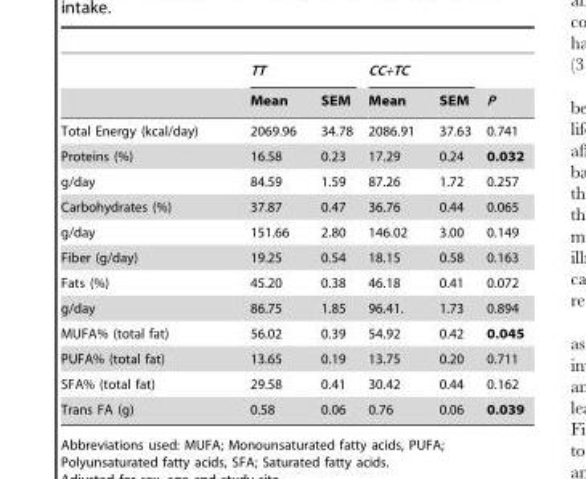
<table><thead><tr><td rowspan="2"></td><td colspan="2">TT</td><td colspan="2">CC+TC</td><td rowspan="2">P</td></tr><tr><td>Mean</td><td>SEM</td><td>Mean</td><td>SEM</td></tr></thead><tbody><tr><td>Total Energy (kcal/day)</td><td>2069.96</td><td>34.78</td><td>2086.91</td><td>37.63</td><td>0.741</td></tr><tr><td>Proteins (%)</td><td>16.58</td><td>0.23</td><td>17.29</td><td>0.24</td><td>0.032</td></tr><tr><td>g/day</td><td>84.59</td><td>1.59</td><td>87.26</td><td>1.72</td><td>0.257</td></tr><tr><td>Carbohydrates (%)</td><td>37.87</td><td>0.47</td><td>36.76</td><td>0.44</td><td>0.065</td></tr><tr><td>g/day</td><td>151.66</td><td>2.80</td><td>146.02</td><td>3.00</td><td>0.149</td></tr><tr><td>Fiber (g/day)</td><td>19.25</td><td>0.54</td><td>18.15</td><td>0.58</td><td>0.163</td></tr><tr><td>Fats (%)</td><td>45.20</td><td>0.38</td><td>46.18</td><td>0.41</td><td>0.072</td></tr><tr><td>g/day</td><td>86.75</td><td>1.85</td><td>96.41.</td><td>1.73</td><td>0.894</td></tr><tr><td>MUFA% (total fat)</td><td>56.02</td><td>0.39</td><td>54.92</td><td>0.42</td><td>0.045</td></tr><tr><td>PUFA% (total fat)</td><td>13.65</td><td>0.19</td><td>13.75</td><td>0.20</td><td>0.711</td></tr><tr><td>SFA% (total fat)</td><td>29.58</td><td>0.41</td><td>30.42</td><td>0.44</td><td>0.162</td></tr><tr><td>Trans FA (g)</td><td>0.58</td><td>0.06</td><td>0.76</td><td>0.06</td><td>0.039</td></tr></tbody></table>